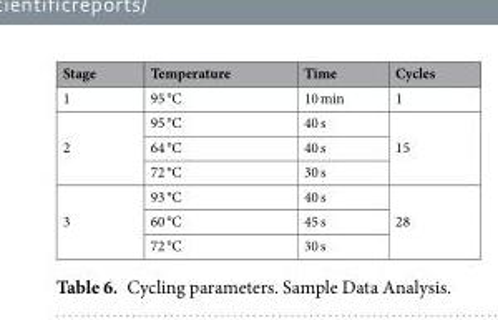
<table><thead><tr><td>Stage</td><td>Temperature</td><td>Time</td><td>Cycles</td></tr></thead><tbody><tr><td>1</td><td>95 °C</td><td>10 min</td><td>1</td></tr><tr><td rowspan="3">2</td><td>95 °C</td><td>40 s</td><td rowspan="3">15</td></tr><tr><td>64 °C</td><td>40 s</td></tr><tr><td>72 °C</td><td>30 s</td></tr><tr><td rowspan="3">3</td><td>93 °C</td><td>40 s</td><td rowspan="3">28</td></tr><tr><td>60 °C</td><td>45 s</td></tr><tr><td>72 °C</td><td>30 s</td></tr></tbody></table>